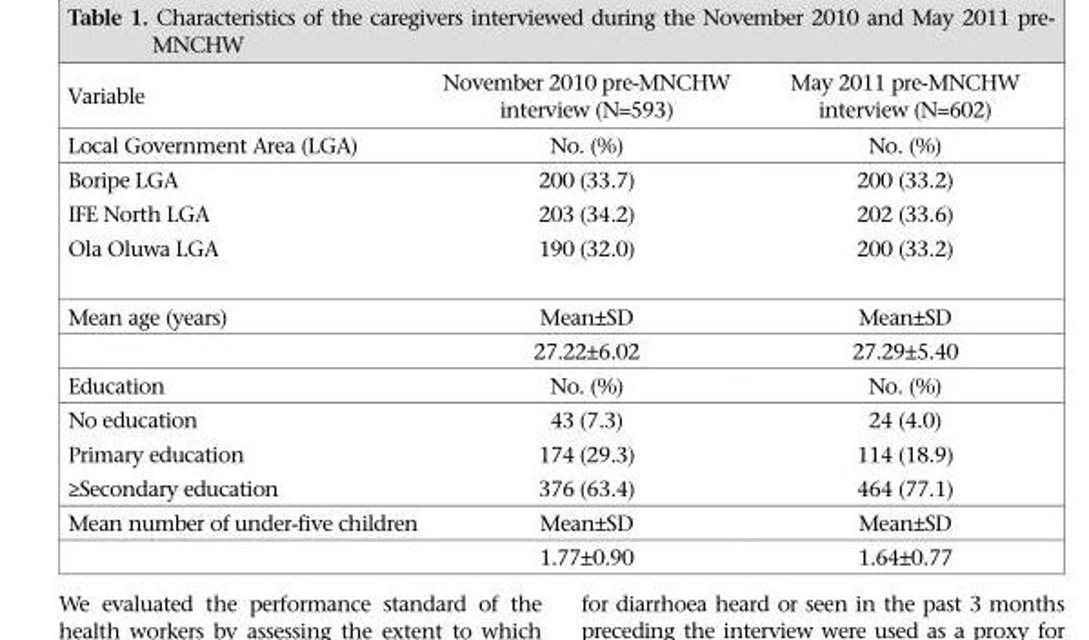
<table><thead><tr><td>Variable</td><td>November 2010 pre-MNCHW interview (N=593)</td><td>May 2011 pre-MNCHW interview (N=602)</td></tr></thead><tbody><tr><td>Local Government Area (LGA)</td><td>No. (%)</td><td>No. (%)</td></tr><tr><td>Boripe LGA</td><td>200 (33.7)</td><td>200 (33.2)</td></tr><tr><td>IFE North LGA</td><td>203 (34.2)</td><td>202 (33.6)</td></tr><tr><td>Ola Oluwa LGA</td><td>190 (32.0)</td><td>200 (33.2)</td></tr><tr><td rowspan="2">Mean age (years)</td><td>Mean±SD</td><td>Mean±SD</td></tr><tr><td>27.22±6.02</td><td>27.29±5.40</td></tr><tr><td>Education</td><td>No. (%)</td><td>No. (%)</td></tr><tr><td>No education</td><td>43 (7.3)</td><td>24 (4.0)</td></tr><tr><td>Primary education</td><td>174 (29.3)</td><td>114 (18.9)</td></tr><tr><td>≥Secondary education</td><td>376 (63.4)</td><td>464 (77.1)</td></tr><tr><td rowspan="2">Mean number of under-five children</td><td>Mean±SD</td><td>Mean±SD</td></tr><tr><td>1.77±0.90</td><td>1.64±0.77</td></tr></tbody></table>